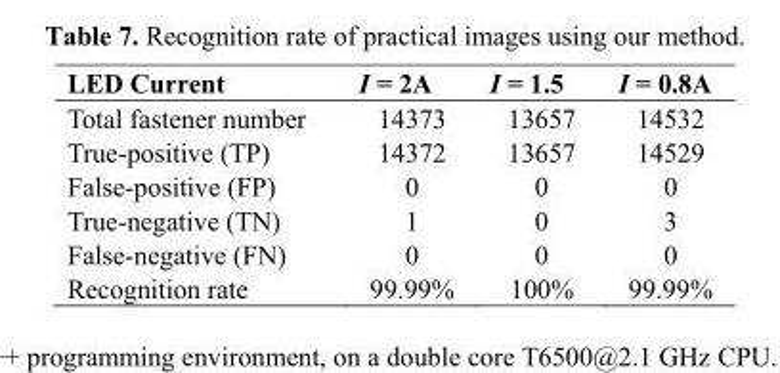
<table><thead><tr><td>LED Current</td><td>I = 2A</td><td>I = 1.5</td><td>I = 0.8A</td></tr></thead><tbody><tr><td>Total fastener number</td><td>14373</td><td>13657</td><td>14532</td></tr><tr><td>True-positive (TP)</td><td>14372</td><td>13657</td><td>14529</td></tr><tr><td>False-positive (FP)</td><td>0</td><td>0</td><td>0</td></tr><tr><td>True-negative (TN)</td><td>1</td><td>0</td><td>3</td></tr><tr><td>False-negative (FN)</td><td>0</td><td>0</td><td>0</td></tr><tr><td>Recognition rate</td><td>99.99%</td><td>100%</td><td>99.99%</td></tr></tbody></table>